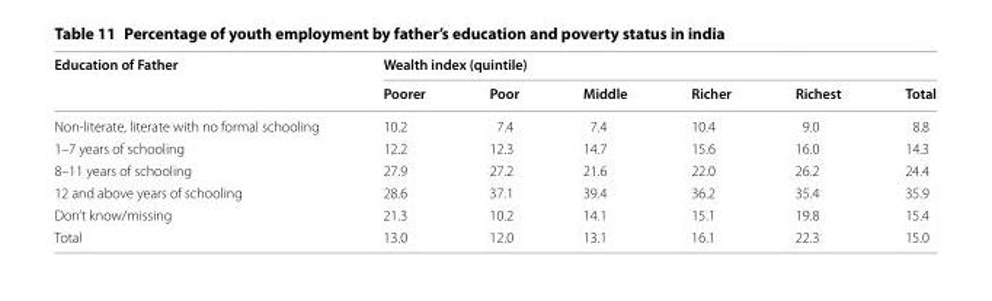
<table><thead><tr><td rowspan="2">Education of Father</td><td colspan="6">Wealth index (quintile)</td></tr><tr><td>Poorer</td><td>Poor</td><td>Middle</td><td>Richer</td><td>Richest</td><td>Total</td></tr></thead><tbody><tr><td>Non-literate, literate with no formal schooling</td><td>10.2</td><td>7.4</td><td>7.4</td><td>10.4</td><td>9.0</td><td>8.8</td></tr><tr><td>1–7 years of schooling</td><td>12.2</td><td>12.3</td><td>14.7</td><td>15.6</td><td>16.0</td><td>14.3</td></tr><tr><td>8–11 years of schooling</td><td>27.9</td><td>27.2</td><td>21.6</td><td>22.0</td><td>26.2</td><td>24.4</td></tr><tr><td>12 and above years of schooling</td><td>28.6</td><td>37.1</td><td>39.4</td><td>36.2</td><td>35.4</td><td>35.9</td></tr><tr><td>Don’t know/missing</td><td>21.3</td><td>10.2</td><td>14.1</td><td>15.1</td><td>19.8</td><td>15.4</td></tr><tr><td>Total</td><td>13.0</td><td>12.0</td><td>13.1</td><td>16.1</td><td>22.3</td><td>15.0</td></tr></tbody></table>